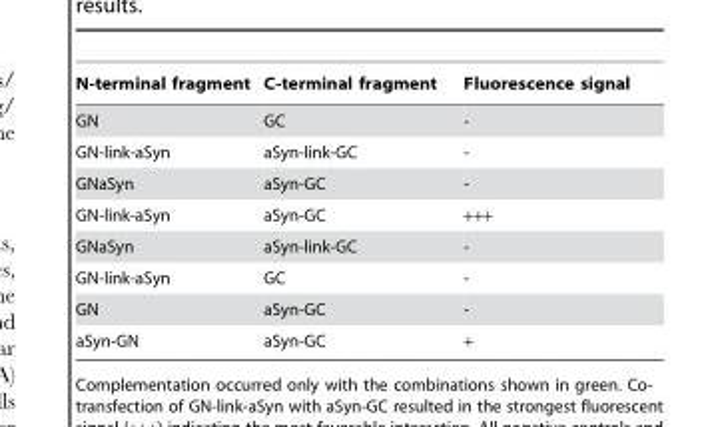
<table><thead><tr><td>N-terminal fragment</td><td>C-terminal fragment</td><td>Fluorescence signal</td></tr></thead><tbody><tr><td>GN</td><td>GC</td><td>-</td></tr><tr><td>GN-link-aSyn</td><td>aSyn-link-GC</td><td>-</td></tr><tr><td>GNaSyn</td><td>aSyn-GC</td><td>-</td></tr><tr><td>GN-link-aSyn</td><td>aSyn-GC</td><td>+++</td></tr><tr><td>GNaSyn</td><td>aSyn-link-GC</td><td>-</td></tr><tr><td>GN-link-aSyn</td><td>GC</td><td>-</td></tr><tr><td>GN</td><td>aSyn-GC</td><td>-</td></tr><tr><td>aSyn-GN</td><td>aSyn-GC</td><td>+</td></tr></tbody></table>